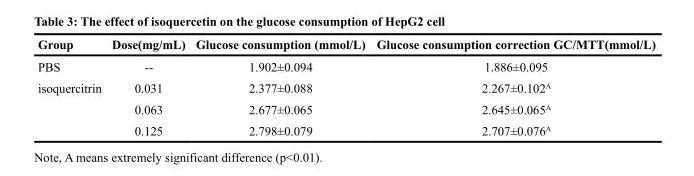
<table><thead><tr><td>Group</td><td>Dose(mg/mL)</td><td>Glucose consumption (mmol/L)</td><td>Glucose consumption correction GC/MTT(mmol/L)</td></tr></thead><tbody><tr><td>PBS</td><td>--</td><td>1.902±0.094</td><td>1.886±0.095</td></tr><tr><td rowspan="3">isoquercitrin</td><td>0.031</td><td>2.377±0.088</td><td>2.267±0.102<sup>A</sup></td></tr><tr><td>0.063</td><td>2.677±0.065</td><td>2.645±0.065<sup>A</sup></td></tr><tr><td>0.125</td><td>2.798±0.079</td><td>2.707±0.076<sup>A</sup></td></tr></tbody></table>